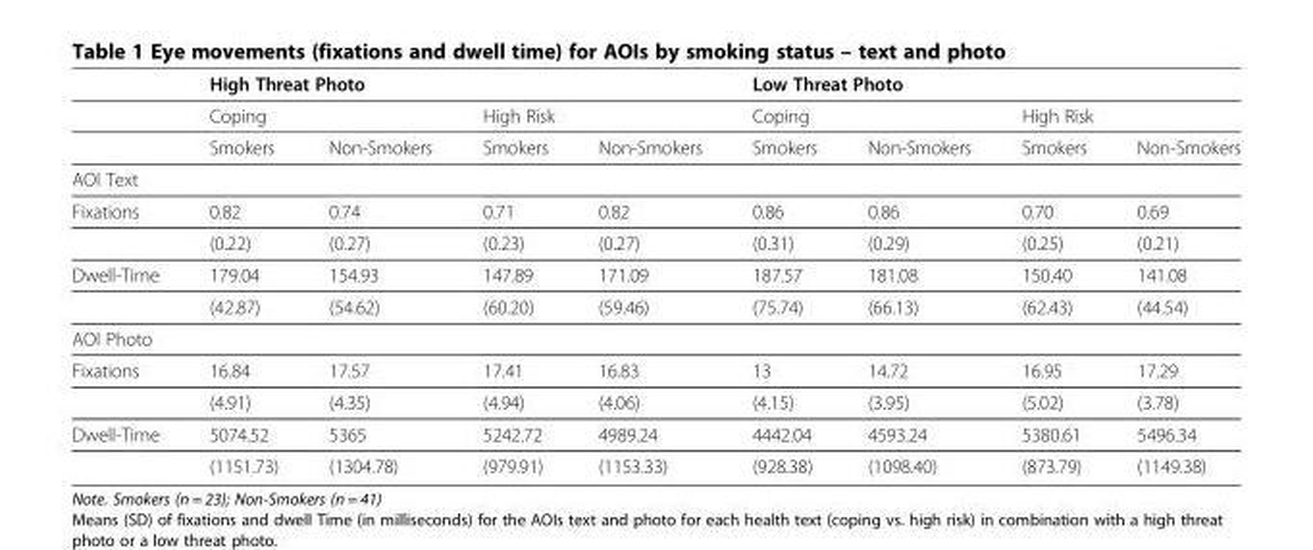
<table><thead><tr><td rowspan="3"></td><td colspan="4">High Threat Photo</td><td colspan="4">Low Threat Photo</td></tr><tr><td colspan="2">Coping</td><td colspan="2">High Risk</td><td colspan="2">Coping</td><td colspan="2">High Risk</td></tr><tr><td>Smokers</td><td>Non-Smokers</td><td>Smokers</td><td>Non-Smokers</td><td>Smokers</td><td>Non-Smokers</td><td>Smokers</td><td>Non-Smokers</td></tr></thead><tbody><tr><td colspan="9">AOI Text</td></tr><tr><td rowspan="2">Fixations</td><td>0.82</td><td>0.74</td><td>0.71</td><td>0.82</td><td>0.86</td><td>0.86</td><td>0.70</td><td>0.69</td></tr><tr><td>(0.22)</td><td>(0.27)</td><td>(0.23)</td><td>(0.27)</td><td>(0.31)</td><td>(0.29)</td><td>(0.25)</td><td>(0.21)</td></tr><tr><td rowspan="2">Dwell-Time</td><td>179.04</td><td>154.93</td><td>147.89</td><td>171.09</td><td>187.57</td><td>181.08</td><td>150.40</td><td>141.08</td></tr><tr><td>(42.87)</td><td>(54.62)</td><td>(60.20)</td><td>(59.46)</td><td>(75.74)</td><td>(66.13)</td><td>(62.43)</td><td>(44.54)</td></tr><tr><td colspan="9">AOI Photo</td></tr><tr><td rowspan="2">Fixations</td><td>16.84</td><td>17.57</td><td>17.41</td><td>16.83</td><td>13</td><td>14.72</td><td>16.95</td><td>17.29</td></tr><tr><td>(4.91)</td><td>(4.35)</td><td>(4.94)</td><td>(4.06)</td><td>(4.15)</td><td>(3.95)</td><td>(5.02)</td><td>(3.78)</td></tr><tr><td rowspan="2">Dwell-Time</td><td>5074.52</td><td>5365</td><td>5242.72</td><td>4989.24</td><td>4442.04</td><td>4593.24</td><td>5380.61</td><td>5496.34</td></tr><tr><td>(1151.73)</td><td>(1304.78)</td><td>(979.91)</td><td>(1153.33)</td><td>(928.38)</td><td>(1098.40)</td><td>(873.79)</td><td>(1149.38)</td></tr></tbody></table>